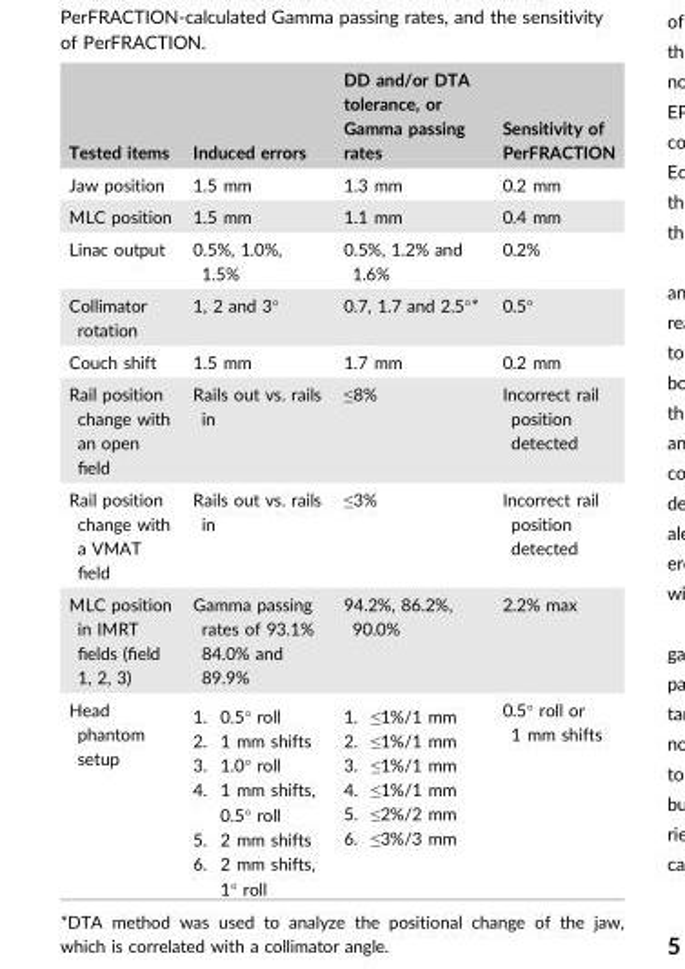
<table><thead><tr><td>Tested items</td><td>Induced errors</td><td>DD and/or DTA tolerance, or Gamma passing rates</td><td>Sensitivity of PerFRACTION</td></tr></thead><tbody><tr><td>Jaw position</td><td>1.5 mm</td><td>1.3 mm</td><td>0.2 mm</td></tr><tr><td>MLC position</td><td>1.5 mm</td><td>1.1 mm</td><td>0.4 mm</td></tr><tr><td>Linac output</td><td>0.5%, 1.0%, 1.5%</td><td>0.5%, 1.2% and 1.6%</td><td>0.2%</td></tr><tr><td>Collimator rotation</td><td>1, 2 and 3°</td><td>0.7, 1.7 and 2.5°*</td><td>0.5°</td></tr><tr><td>Couch shift</td><td>1.5 mm</td><td>1.7 mm</td><td>0.2 mm</td></tr><tr><td>Rail position change with an open field</td><td>Rails out vs. rails in</td><td>≤8%</td><td>Incorrect rail position detected</td></tr><tr><td>Rail position change with a VMAT field</td><td>Rails out vs. rails in</td><td>≤3%</td><td>Incorrect rail position detected</td></tr><tr><td>MLC position in IMRT fields (field 1, 2, 3)</td><td>Gamma passing rates of 93.1% 84.0% and 89.9%</td><td>94.2%, 86.2%, 90.0%</td><td>2.2% max</td></tr><tr><td>Head phantom setup</td><td>1. 0.5° roll 2. 1 mm shifts 3. 1.0° roll 4. 1 mm shifts, 0.5° roll 5. 2 mm shifts 6. 2 mm shifts, 1° roll</td><td>1. ≤1%/1 mm 2. ≤1%/1 mm 3. ≤1%/1 mm 4. ≤1%/1 mm 5. ≤2%/2 mm 6. ≤3%/3 mm</td><td>0.5° roll or 1 mm shifts</td></tr></tbody></table>